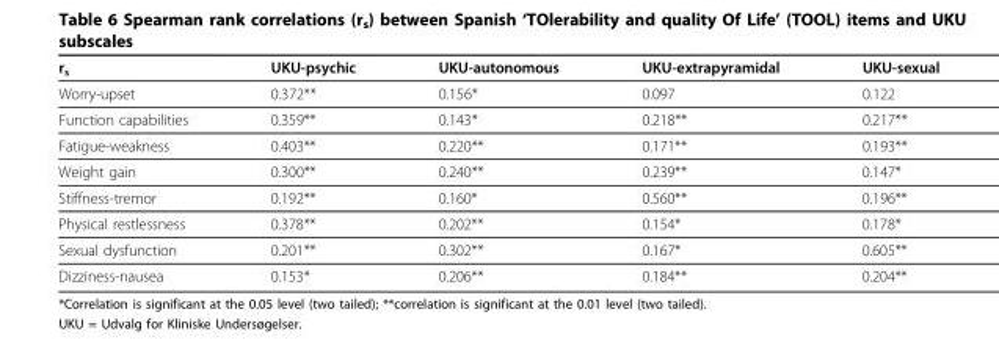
<table><thead><tr><td>rs</td><td>UKU-psychic</td><td>UKU-autonomous</td><td>UKU-extrapyramidal</td><td>UKU-sexual</td></tr></thead><tbody><tr><td>Worry-upset</td><td>0.372**</td><td>0.156*</td><td>0.097</td><td>0.122</td></tr><tr><td>Function capabilities</td><td>0.359**</td><td>0.143*</td><td>0.218**</td><td>0.217**</td></tr><tr><td>Fatigue-weakness</td><td>0.403**</td><td>0.220**</td><td>0.171**</td><td>0.193**</td></tr><tr><td>Weight gain</td><td>0.300**</td><td>0.240**</td><td>0.239**</td><td>0.147*</td></tr><tr><td>Stiffness-tremor</td><td>0.192**</td><td>0.160*</td><td>0.560**</td><td>0.196**</td></tr><tr><td>Physical restlessness</td><td>0.378**</td><td>0.202**</td><td>0.154*</td><td>0.178*</td></tr><tr><td>Sexual dysfunction</td><td>0.201**</td><td>0.302**</td><td>0.167*</td><td>0.605**</td></tr><tr><td>Dizziness-nausea</td><td>0.153*</td><td>0.206**</td><td>0.184**</td><td>0.204**</td></tr></tbody></table>